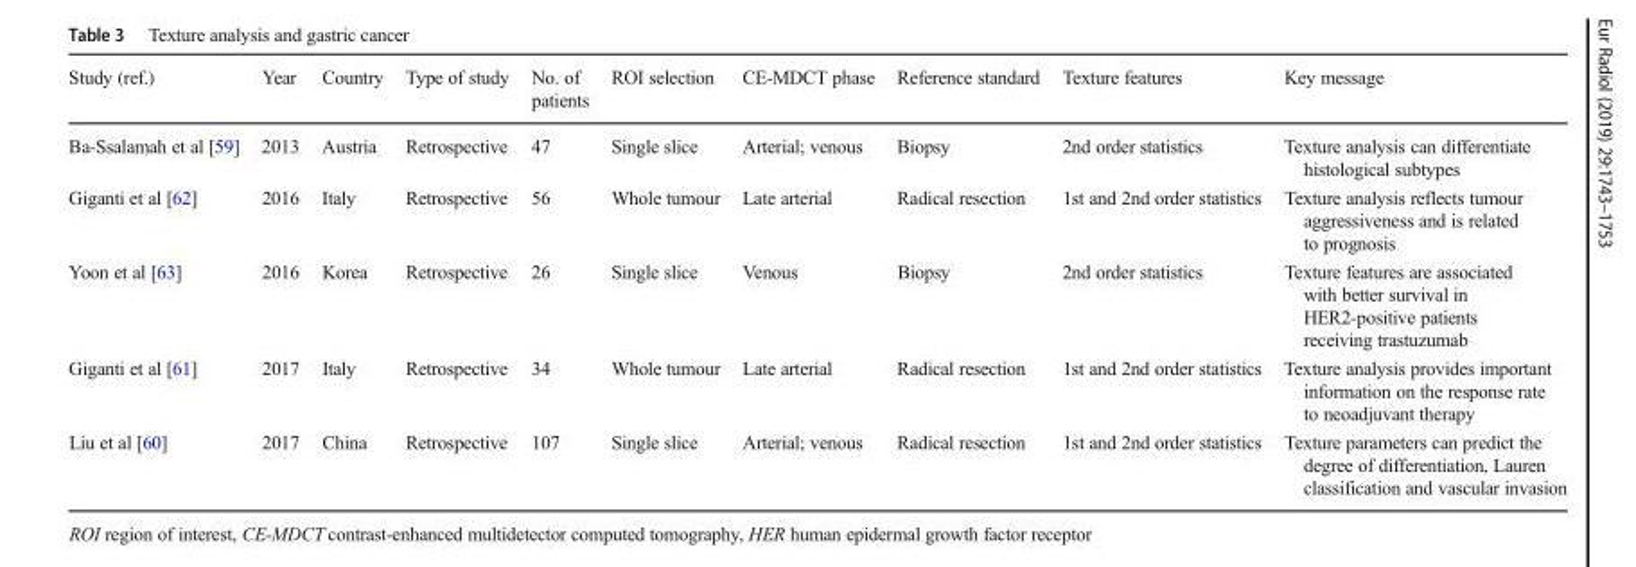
<table><thead><tr><td>Study (ref.)</td><td>Year</td><td>Country</td><td>Type of study</td><td>No. of patients</td><td>ROI selection</td><td>CE-MDCT phase</td><td>Reference standard</td><td>Texture features</td><td>Key message</td></tr></thead><tbody><tr><td>Ba-Ssalamah et al [59]</td><td>2013</td><td>Austria</td><td>Retrospective</td><td>47</td><td>Single slice</td><td>Arterial; venous</td><td>Biopsy</td><td>2nd order statistics</td><td>Texture analysis can differentiate histological subtypes</td></tr><tr><td>Giganti et al [62]</td><td>2016</td><td>Italy</td><td>Retrospective</td><td>56</td><td>Whole tumour</td><td>Late arterial</td><td>Radical resection</td><td>1st and 2nd order statistics</td><td>Texture analysis reflects tumour aggressiveness and is related to prognosis</td></tr><tr><td>Yoon et al [63]</td><td>2016</td><td>Korea</td><td>Retrospective</td><td>26</td><td>Single slice</td><td>Venous</td><td>Biopsy</td><td>2nd order statistics</td><td>Texture features are associated with better survival in HER2-positive patients receiving trastuzumab</td></tr><tr><td>Giganti et al [61]</td><td>2017</td><td>Italy</td><td>Retrospective</td><td>34</td><td>Whole tumour</td><td>Late arterial</td><td>Radical resection</td><td>1st and 2nd order statistics</td><td>Texture analysis provides important information on the response rate to neoadjuvant therapy</td></tr><tr><td>Liu et al [60]</td><td>2017</td><td>China</td><td>Retrospective</td><td>107</td><td>Single slice</td><td>Arterial; venous</td><td>Radical resection</td><td>1st and 2nd order statistics</td><td>Texture parameters can predict the degree of differentiation, Lauren classification and vascular invasion</td></tr></tbody></table>